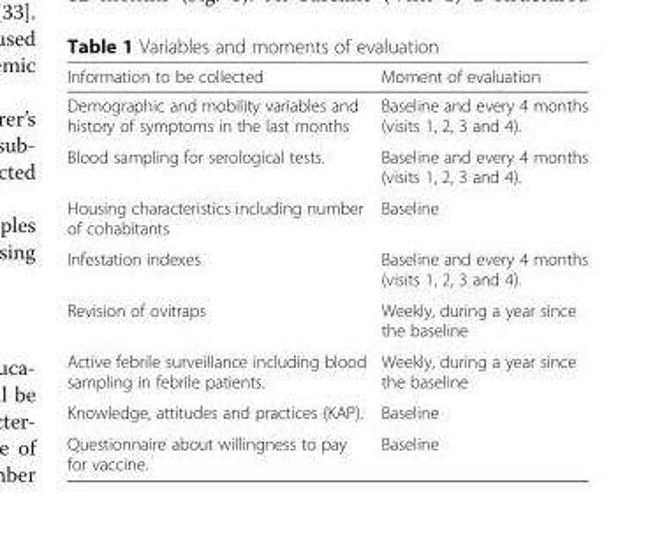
<table><thead><tr><td>Information to be collected</td><td>Moment of evaluation</td></tr></thead><tbody><tr><td>Demographic and mobility variables and history of symptoms in the last months</td><td>Baseline and every 4 months (visits 1, 2, 3 and 4).</td></tr><tr><td>Blood sampling for serological tests.</td><td>Baseline and every 4 months (visits 1, 2, 3 and 4).</td></tr><tr><td>Housing characteristics including number of cohabitants</td><td>Baseline</td></tr><tr><td>Infestation indexes</td><td>Baseline and every 4 months (visits 1, 2, 3 and 4).</td></tr><tr><td>Revision of ovitraps</td><td>Weekly, during a year since the baseline</td></tr><tr><td>Active febrile surveillance including blood sampling in febrile patients.</td><td>Weekly, during a year since the baseline</td></tr><tr><td>Knowledge, attitudes and practices (KAP).</td><td>Baseline</td></tr><tr><td>Questionnaire about willingness to pay for vaccine.</td><td>Baseline</td></tr></tbody></table>